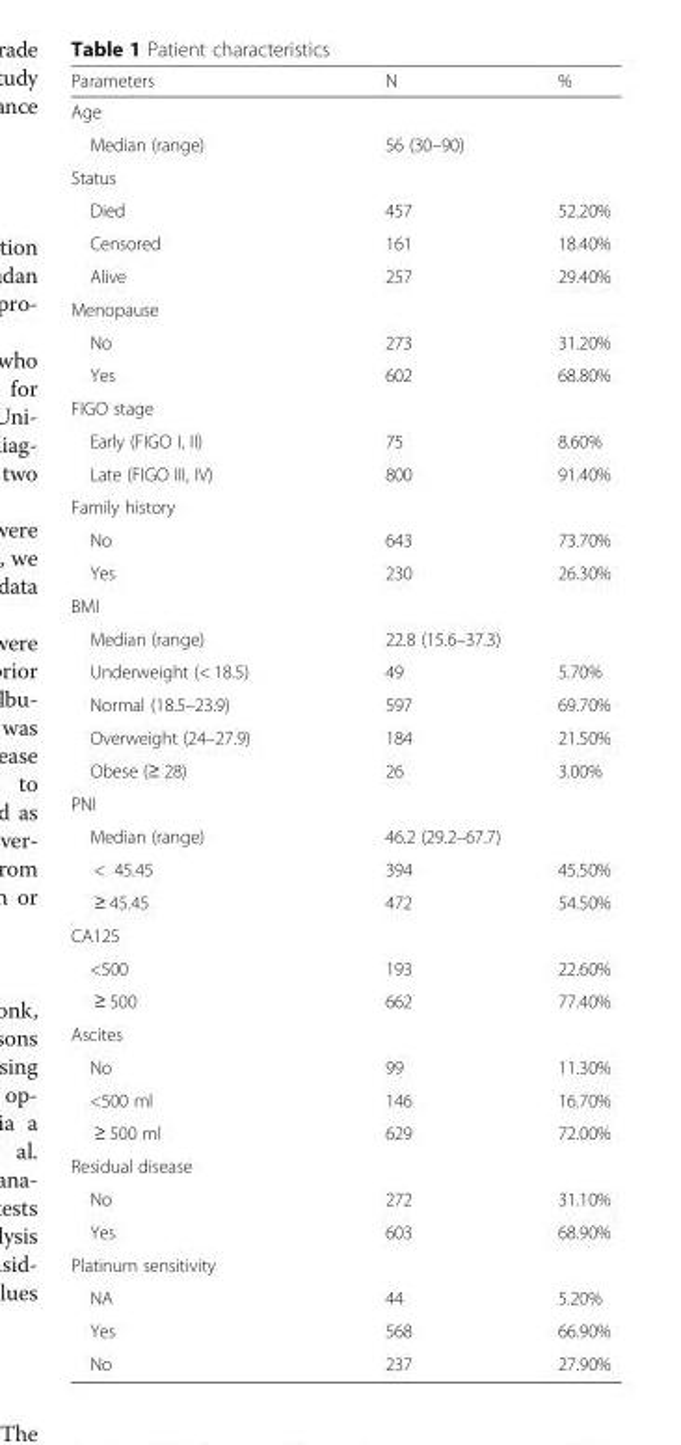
<table><thead><tr><td>Parameters</td><td>N</td><td>%</td></tr></thead><tbody><tr><td colspan="3">Age</td></tr><tr><td>Median (range)</td><td colspan="2">56 (30–90)</td></tr><tr><td colspan="3">Status</td></tr><tr><td>Died</td><td>457</td><td>52.20%</td></tr><tr><td>Censored</td><td>161</td><td>18.40%</td></tr><tr><td>Alive</td><td>257</td><td>29.40%</td></tr><tr><td colspan="3">Menopause</td></tr><tr><td>No</td><td>273</td><td>31.20%</td></tr><tr><td>Yes</td><td>602</td><td>68.80%</td></tr><tr><td colspan="3">FIGO stage</td></tr><tr><td>Early (FIGO I, II)</td><td>75</td><td>8.60%</td></tr><tr><td>Late (FIGO III, IV)</td><td>800</td><td>91.40%</td></tr><tr><td colspan="3">Family history</td></tr><tr><td>No</td><td>643</td><td>73.70%</td></tr><tr><td>Yes</td><td>230</td><td>26.30%</td></tr><tr><td colspan="3">BMI</td></tr><tr><td>Median (range)</td><td colspan="2">22.8 (15.6–37.3)</td></tr><tr><td>Underweight (&lt; 18.5)</td><td>49</td><td>5.70%</td></tr><tr><td>Normal (18.5–23.9)</td><td>597</td><td>69.70%</td></tr><tr><td>Overweight (24–27.9)</td><td>184</td><td>21.50%</td></tr><tr><td>Obese (≥ 28)</td><td>26</td><td>3.00%</td></tr><tr><td colspan="3">PNI</td></tr><tr><td>Median (range)</td><td colspan="2">46.2 (29.2–67.7)</td></tr><tr><td>&lt; 45.45</td><td>394</td><td>45.50%</td></tr><tr><td>≥ 45.45</td><td>472</td><td>54.50%</td></tr><tr><td colspan="3">CA125</td></tr><tr><td>&lt;500</td><td>193</td><td>22.60%</td></tr><tr><td>≥ 500</td><td>662</td><td>77.40%</td></tr><tr><td colspan="3">Ascites</td></tr><tr><td>No</td><td>99</td><td>11.30%</td></tr><tr><td>&lt;500 ml</td><td>146</td><td>16.70%</td></tr><tr><td>≥ 500 ml</td><td>629</td><td>72.00%</td></tr><tr><td colspan="3">Residual disease</td></tr><tr><td>No</td><td>272</td><td>31.10%</td></tr><tr><td>Yes</td><td>603</td><td>68.90%</td></tr><tr><td colspan="3">Platinum sensitivity</td></tr><tr><td>NA</td><td>44</td><td>5.20%</td></tr><tr><td>Yes</td><td>568</td><td>66.90%</td></tr><tr><td>No</td><td>237</td><td>27.90%</td></tr></tbody></table>